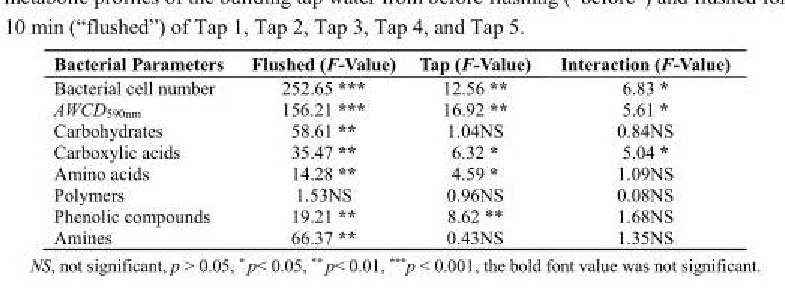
<table><thead><tr><td>Bacterial Parameters</td><td>Flushed (F-Value)</td><td>Tap (F-Value)</td><td>Interaction (F-Value)</td></tr></thead><tbody><tr><td>Bacterial cell number</td><td>252.65 ***</td><td>12.56 **</td><td>6.83 *</td></tr><tr><td>AWCD<sub>590nm</sub></td><td>156.21 ***</td><td>16.92 **</td><td>5.61 *</td></tr><tr><td>Carbohydrates</td><td>58.61 **</td><td>1.04NS</td><td>0.84NS</td></tr><tr><td>Carboxylic acids</td><td>35.47 **</td><td>6.32 *</td><td>5.04 *</td></tr><tr><td>Amino acids</td><td>14.28 **</td><td>4.59 *</td><td>1.09NS</td></tr><tr><td>Polymers</td><td>1.53NS</td><td>0.96NS</td><td>0.08NS</td></tr><tr><td>Phenolic compounds</td><td>19.21 **</td><td>8.62 **</td><td>1.68NS</td></tr><tr><td>Amines</td><td>66.37 **</td><td>0.43NS</td><td>1.35NS</td></tr></tbody></table>